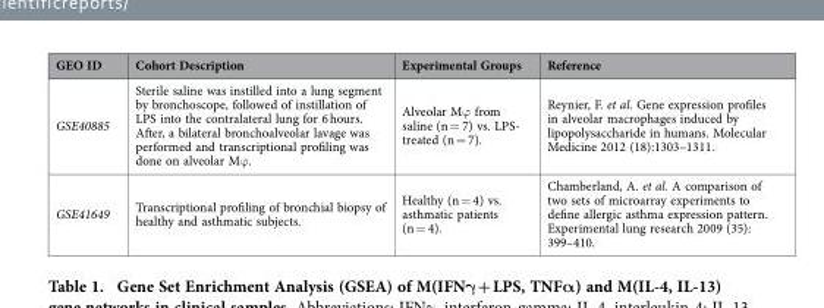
<table><thead><tr><td>GEO ID</td><td>Cohort Description</td><td>Experimental Groups</td><td>Reference</td></tr></thead><tbody><tr><td>GSE40885</td><td>Sterile saline was instilled into a lung segment by bronchoscope, followed of instillation of LPS into the contralateral lung for 6 hours. After, a bilateral bronchoalveolar lavage was performed and transcriptional profiling was done on alveolar Mϕ .</td><td>Alveolar Mϕ from saline (n = 7) vs. LPS- treated (n = 7).</td><td>Reynier, F. et al. Gene expression profiles in alveolar macrophages induced by lipopolysaccharide in humans. Molecular Medicine 2012 (18):1303–1311.</td></tr><tr><td>GSE41649</td><td>Transcriptional profiling of bronchial biopsy of healthy and asthmatic subjects.</td><td>Healthy (n = 4) vs. asthmatic patients (n = 4).</td><td>Chamberland, A. et al. A comparison of two sets of microarray experiments to define allergic asthma expression pattern. Experimental lung research 2009 (35): 399–410.</td></tr></tbody></table>